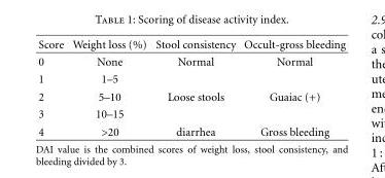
<table><thead><tr><td>Score</td><td>Weight loss (%)</td><td>Stool consistency</td><td>Occult-gross bleeding</td></tr></thead><tbody><tr><td>0</td><td>None</td><td>Normal</td><td>Normal</td></tr><tr><td>1</td><td>1–5</td><td></td><td></td></tr><tr><td>2</td><td>5–10</td><td>Loose stools</td><td>Guaiac (+)</td></tr><tr><td>3</td><td>10–15</td><td></td><td></td></tr><tr><td>4</td><td>&gt;20</td><td>diarrhea</td><td>Gross bleeding</td></tr></tbody></table>